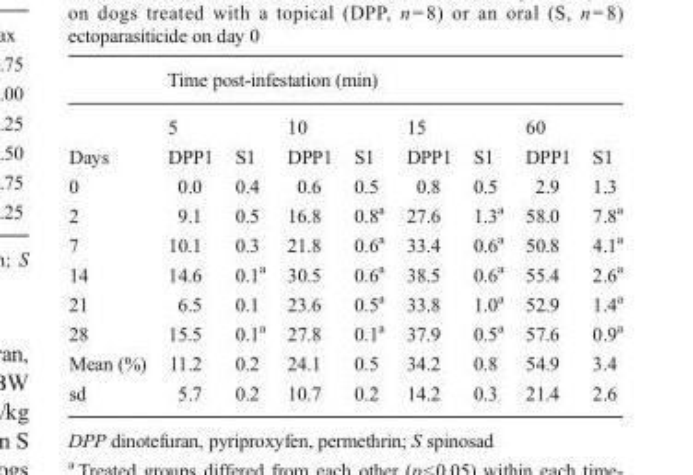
<table><thead><tr><td rowspan="3">Days</td><td colspan="8">Time post-infestation (min)</td></tr><tr><td colspan="2">5</td><td colspan="2">10</td><td colspan="2">15</td><td colspan="2">60</td></tr><tr><td>DPP1</td><td>S1</td><td>DPP1</td><td>S1</td><td>DPP1</td><td>S1</td><td>DPP1</td><td>S1</td></tr></thead><tbody><tr><td>0</td><td>0.0</td><td>0.4</td><td>0.6</td><td>0.5</td><td>0.8</td><td>0.5</td><td>2.9</td><td>1.3</td></tr><tr><td>2</td><td>9.1</td><td>0.5</td><td>16.8</td><td>0.8<sup>a</sup></td><td>27.6</td><td>1.3<sup>a</sup></td><td>58.0</td><td>7.8<sup>a</sup></td></tr><tr><td>7</td><td>10.1</td><td>0.3</td><td>21.8</td><td>0.6<sup>a</sup></td><td>33.4</td><td>0.6<sup>a</sup></td><td>50.8</td><td>4.1<sup>a</sup></td></tr><tr><td>14</td><td>14.6</td><td>0.1<sup>a</sup></td><td>30.5</td><td>0.6<sup>a</sup></td><td>38.5</td><td>0.6<sup>a</sup></td><td>55.4</td><td>2.6<sup>a</sup></td></tr><tr><td>21</td><td>6.5</td><td>0.1</td><td>23.6</td><td>0.5<sup>a</sup></td><td>33.8</td><td>1.0<sup>a</sup></td><td>52.9</td><td>1.4<sup>a</sup></td></tr><tr><td>28</td><td>15.5</td><td>0.1<sup>a</sup></td><td>27.8</td><td>0.1<sup>a</sup></td><td>37.9</td><td>0.5<sup>a</sup></td><td>57.6</td><td>0.9<sup>a</sup></td></tr><tr><td>Mean (%)</td><td>11.2</td><td>0.2</td><td>24.1</td><td>0.5</td><td>34.2</td><td>0.8</td><td>54.9</td><td>3.4</td></tr><tr><td>sd</td><td>5.7</td><td>0.2</td><td>10.7</td><td>0.2</td><td>14.2</td><td>0.3</td><td>21.4</td><td>2.6</td></tr></tbody></table>